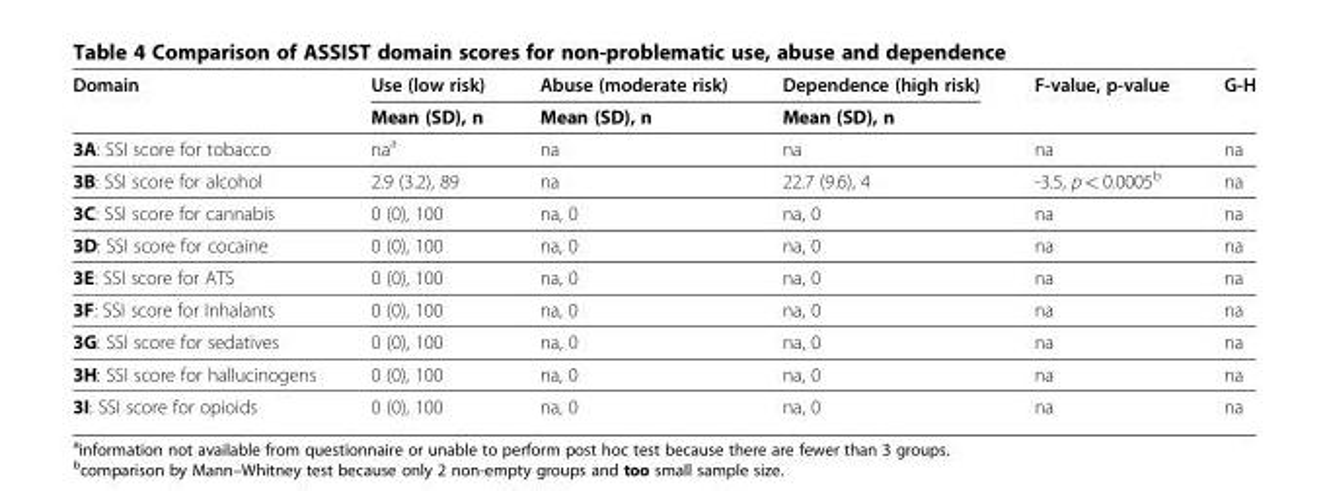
<table><thead><tr><td>Domain</td><td>Use (low risk)</td><td>Abuse (moderate risk)</td><td>Dependence (high risk)</td><td>F-value, p-value</td><td>G-H</td></tr></thead><tbody><tr><td></td><td>Mean (SD), n</td><td>Mean (SD), n</td><td>Mean (SD), n</td><td></td><td></td></tr><tr><td>3A: SSI score for tobacco</td><td>na<sup>a</sup></td><td>na</td><td>na</td><td>na</td><td>na</td></tr><tr><td>3B: SSI score for alcohol</td><td>2.9 (3.2), 89</td><td>na</td><td>22.7 (9.6), 4</td><td>-3.5, p &lt; 0.0005<sup>b</sup></td><td>na</td></tr><tr><td>3C: SSI score for cannabis</td><td>0 (0), 100</td><td>na, 0</td><td>na, 0</td><td>na</td><td>na</td></tr><tr><td>3D: SSI score for cocaine</td><td>0 (0), 100</td><td>na, 0</td><td>na, 0</td><td>na</td><td>na</td></tr><tr><td>3E: SSI score for ATS</td><td>0 (0), 100</td><td>na, 0</td><td>na, 0</td><td>na</td><td>na</td></tr><tr><td>3F: SSI score for Inhalants</td><td>0 (0), 100</td><td>na, 0</td><td>na, 0</td><td>na</td><td>na</td></tr><tr><td>3G: SSI score for sedatives</td><td>0 (0), 100</td><td>na, 0</td><td>na, 0</td><td>na</td><td>na</td></tr><tr><td>3H: SSI score for hallucinogens</td><td>0 (0), 100</td><td>na, 0</td><td>na, 0</td><td>na</td><td>na</td></tr><tr><td>3I: SSI score for opioids</td><td>0 (0), 100</td><td>na, 0</td><td>na, 0</td><td>na</td><td>na</td></tr></tbody></table>